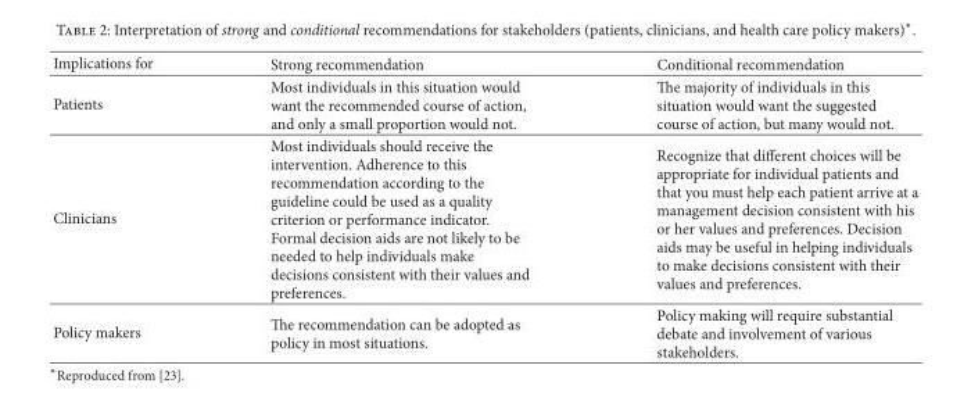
<table><thead><tr><td>Implications for</td><td>Strong recommendation</td><td>Conditional recommendation</td></tr></thead><tbody><tr><td>Patients</td><td>Most individuals in this situation would want the recommended course of action, and only a small proportion would not.</td><td>The majority of individuals in this situation would want the suggested course of action, but many would not.</td></tr><tr><td>Clinicians</td><td>Most individuals should receive the intervention. Adherence to this recommendation according to the guideline could be used as a quality criterion or performance indicator. Formal decision aids are not likely to be needed to help individuals make decisions consistent with their values and preferences.</td><td>Recognize that different choices will be appropriate for individual patients and that you must help each patient arrive at a management decision consistent with his or her values and preferences. Decision aids may be useful in helping individuals to make decisions consistent with their values and preferences.</td></tr><tr><td>Policy makers</td><td>The recommendation can be adopted as policy in most situations.</td><td>Policy making will require substantial debate and involvement of various stakeholders.</td></tr></tbody></table>